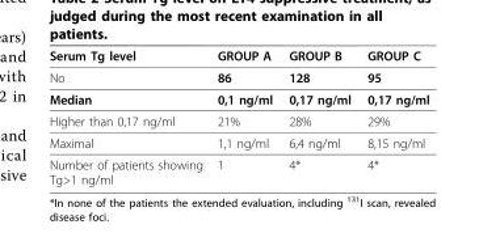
<table><thead><tr><td>Serum Tg level</td><td>GROUP A</td><td>GROUP B</td><td>GROUP C</td></tr></thead><tbody><tr><td>No</td><td>86</td><td>128</td><td>95</td></tr><tr><td>Median</td><td>0,1 ng/ml</td><td>0,17 ng/ml</td><td>0,17 ng/ml</td></tr><tr><td>Higher than 0,17 ng/ml</td><td>21%</td><td>28%</td><td>29%</td></tr><tr><td>Maximal</td><td>1,1 ng/ml</td><td>6,4 ng/ml</td><td>8,15 ng/ml</td></tr><tr><td>Number of patients showing Tg&gt;1 ng/ml</td><td>1</td><td>4*</td><td>4*</td></tr></tbody></table>